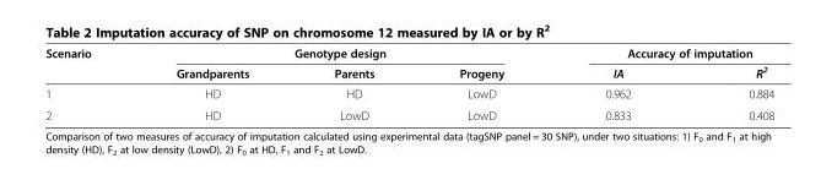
<table><thead><tr><td rowspan="2">Scenario</td><td colspan="3">Genotype design</td><td colspan="2">Accuracy of imputation</td></tr><tr><td>Grandparents</td><td>Parents</td><td>Progeny</td><td>IA</td><td>R<sup>2</sup></td></tr></thead><tbody><tr><td>1</td><td>HD</td><td>HD</td><td>LowD</td><td>0.962</td><td>0.884</td></tr><tr><td>2</td><td>HD</td><td>LowD</td><td>LowD</td><td>0.833</td><td>0.408</td></tr></tbody></table>